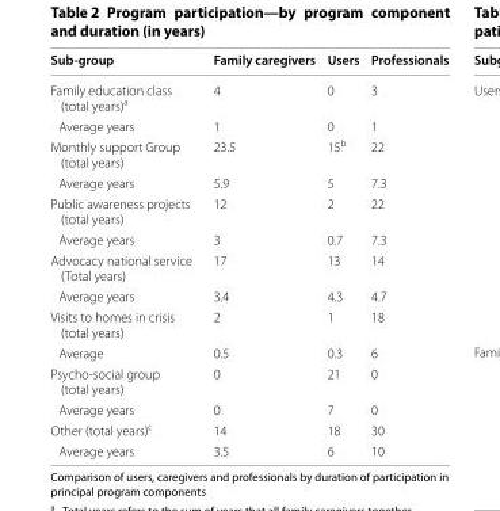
<table><thead><tr><td>Sub-group</td><td>Family caregivers</td><td>Users</td><td>Professionals</td></tr></thead><tbody><tr><td>Family education class (total years)<sup>a</sup></td><td>4</td><td>0</td><td>3</td></tr><tr><td>Average years</td><td>1</td><td>0</td><td>1</td></tr><tr><td>Monthly support Group (total years)</td><td>23.5</td><td>15<sup>b</sup></td><td>22</td></tr><tr><td>Average years</td><td>5.9</td><td>5</td><td>7.3</td></tr><tr><td>Public awareness projects (total years)</td><td>12</td><td>2</td><td>22</td></tr><tr><td>Average years</td><td>3</td><td>0.7</td><td>7.3</td></tr><tr><td>Advocacy national service (Total years)</td><td>17</td><td>13</td><td>14</td></tr><tr><td>Average years</td><td>3.4</td><td>4.3</td><td>4.7</td></tr><tr><td>Visits to homes in crisis (total years)</td><td>2</td><td>1</td><td>18</td></tr><tr><td>Average</td><td>0.5</td><td>0.3</td><td>6</td></tr><tr><td>Psycho-social group (total years)</td><td>0</td><td>21</td><td>0</td></tr><tr><td>Average years</td><td>0</td><td>7</td><td>0</td></tr><tr><td>Other (total years)<sup>c</sup></td><td>14</td><td>18</td><td>30</td></tr><tr><td>Average years</td><td>3.5</td><td>6</td><td>10</td></tr></tbody></table>